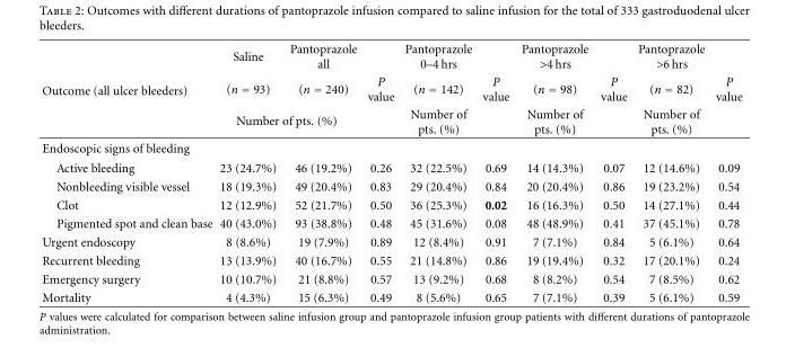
<table><thead><tr><td rowspan="3">Outcome (all ulcer bleeders)</td><td rowspan="2">Saline (n = 93)</td><td rowspan="2">Pantoprazole all (n = 240)</td><td rowspan="3">P value</td><td rowspan="3">Pantoprazole 0–4 hrs (n = 142) Number of pts. (%)</td><td rowspan="3">P value</td><td rowspan="3">Pantoprazole &gt;4 hrs (n = 98) Number of pts. (%)</td><td rowspan="3">P value</td><td rowspan="3">Pantoprazole &gt;6 hrs (n = 82) Number of pts. (%)</td><td rowspan="3">P value</td></tr><tr></tr><tr><td colspan="2">Number of pts. (%)</td></tr></thead><tbody><tr><td colspan="10">Endoscopic signs of bleeding</td></tr><tr><td>Active bleeding</td><td>23 (24.7%)</td><td>46 (19.2%)</td><td>0.26</td><td>32 (22.5%)</td><td>0.69</td><td>14 (14.3%)</td><td>0.07</td><td>12 (14.6%)</td><td>0.09</td></tr><tr><td>Nonbleeding visible vessel</td><td>18 (19.3%)</td><td>49 (20.4%)</td><td>0.83</td><td>29 (20.4%)</td><td>0.84</td><td>20 (20.4%)</td><td>0.86</td><td>19 (23.2%)</td><td>0.54</td></tr><tr><td>Clot</td><td>12 (12.9%)</td><td>52 (21.7%)</td><td>0.50</td><td>36 (25.3%)</td><td>0.02</td><td>16 (16.3%)</td><td>0.50</td><td>14 (27.1%)</td><td>0.44</td></tr><tr><td>Pigmented spot and clean base</td><td>40 (43.0%)</td><td>93 (38.8%)</td><td>0.48</td><td>45 (31.6%)</td><td>0.08</td><td>48 (48.9%)</td><td>0.41</td><td>37 (45.1%)</td><td>0.78</td></tr><tr><td>Urgent endoscopy</td><td>8 (8.6%)</td><td>19 (7.9%)</td><td>0.89</td><td>12 (8.4%)</td><td>0.91</td><td>7 (7.1%)</td><td>0.84</td><td>5 (6.1%)</td><td>0.64</td></tr><tr><td>Recurrent bleeding</td><td>13 (13.9%)</td><td>40 (16.7%)</td><td>0.55</td><td>21 (14.8%)</td><td>0.86</td><td>19 (19.4%)</td><td>0.32</td><td>17 (20.1%)</td><td>0.24</td></tr><tr><td>Emergency surgery</td><td>10 (10.7%)</td><td>21 (8.8%)</td><td>0.57</td><td>13 (9.2%)</td><td>0.68</td><td>8 (8.2%)</td><td>0.54</td><td>7 (8.5%)</td><td>0.62</td></tr><tr><td>Mortality</td><td>4 (4.3%)</td><td>15 (6.3%)</td><td>0.49</td><td>8 (5.6%)</td><td>0.65</td><td>7 (7.1%)</td><td>0.39</td><td>5 (6.1%)</td><td>0.59</td></tr></tbody></table>